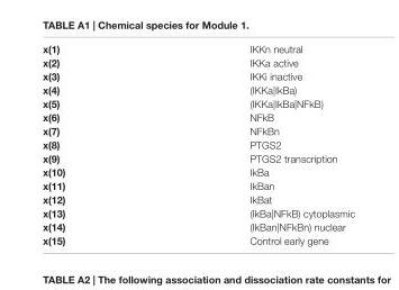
<table><tbody><tr><td>x(1)</td><td>IKKn neutral</td></tr><tr><td>x(2)</td><td>IKKa active</td></tr><tr><td>x(3)</td><td>IKKi inactive</td></tr><tr><td>x(4)</td><td>(IKKa|IkBa)</td></tr><tr><td>x(5)</td><td>(IKKa|IkBa|NFkB)</td></tr><tr><td>x(6)</td><td>NFkB</td></tr><tr><td>x(7)</td><td>NFkBn</td></tr><tr><td>x(8)</td><td>PTGS2</td></tr><tr><td>x(9)</td><td>PTGS2 transcription</td></tr><tr><td>x(10)</td><td>IkBa</td></tr><tr><td>x(11)</td><td>IkBan</td></tr><tr><td>x(12)</td><td>IkBat</td></tr><tr><td>x(13)</td><td>(IkBa|NFkB) cytoplasmic</td></tr><tr><td>x(14)</td><td>(IkBan|NFkBn) nuclear</td></tr><tr><td>x(15)</td><td>Control early gene</td></tr></tbody></table>